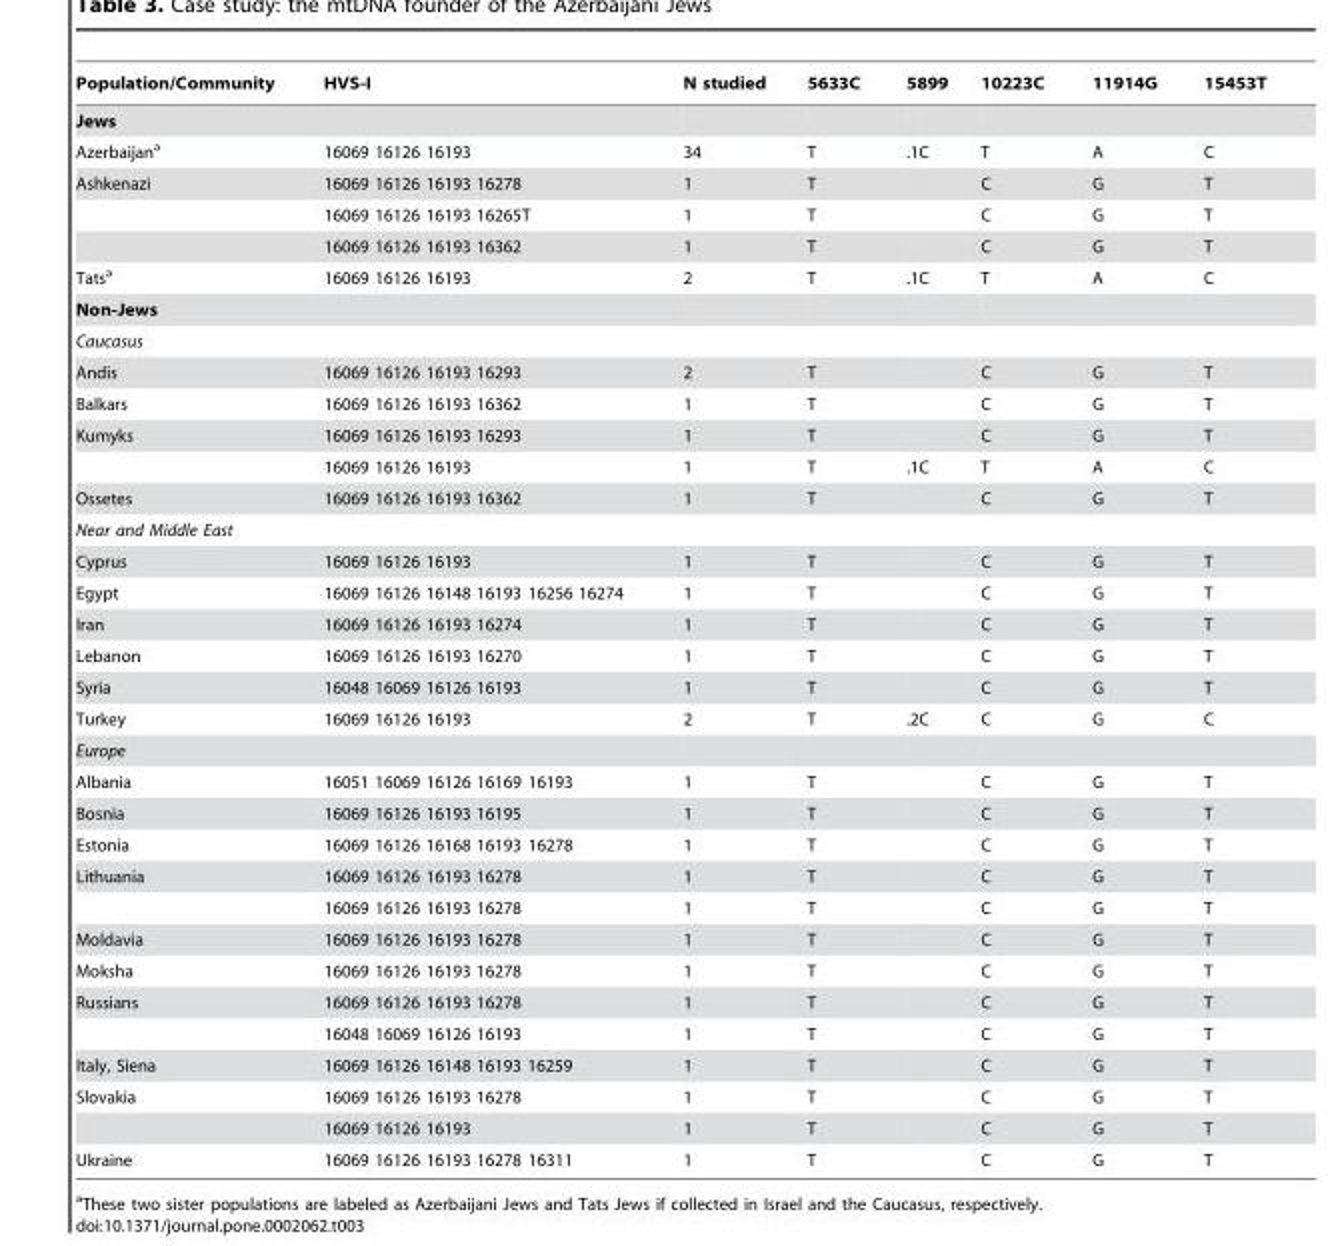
<table><thead><tr><td>Population/Community</td><td>HVS-I</td><td>N studied</td><td>5633C</td><td>5899</td><td>10223C</td><td>11914G</td><td>15453T</td></tr></thead><tbody><tr><td colspan="8">Jews</td></tr><tr><td>Azerbaijan<sup>a</sup></td><td>16069 16126 16193</td><td>34</td><td>T</td><td>.1C</td><td>T</td><td>A</td><td>C</td></tr><tr><td rowspan="3">Ashkenazi</td><td>16069 16126 16193 16278</td><td>1</td><td>T</td><td></td><td>C</td><td>G</td><td>T</td></tr><tr><td>16069 16126 16193 16265T</td><td>1</td><td>T</td><td></td><td>C</td><td>G</td><td>T</td></tr><tr><td>16069 16126 16193 16362</td><td>1</td><td>T</td><td></td><td>C</td><td>G</td><td>T</td></tr><tr><td>Tats<sup>a</sup></td><td>16069 16126 16193</td><td>2</td><td>T</td><td>.1C</td><td>T</td><td>A</td><td>C</td></tr><tr><td colspan="8">Non-Jews</td></tr><tr><td colspan="8">Caucasus</td></tr><tr><td>Andis</td><td>16069 16126 16193 16293</td><td>2</td><td>T</td><td></td><td>C</td><td>G</td><td>T</td></tr><tr><td>Balkars</td><td>16069 16126 16193 16362</td><td>1</td><td>T</td><td></td><td>C</td><td>G</td><td>T</td></tr><tr><td rowspan="2">Kumyks</td><td>16069 16126 16193 16293</td><td>1</td><td>T</td><td></td><td>C</td><td>G</td><td>T</td></tr><tr><td>16069 16126 16193</td><td>1</td><td>T</td><td>.1C</td><td>T</td><td>A</td><td>C</td></tr><tr><td>Ossetes</td><td>16069 16126 16193 16362</td><td>1</td><td>T</td><td></td><td>C</td><td>G</td><td>T</td></tr><tr><td colspan="8">Near and Middle East</td></tr><tr><td>Cyprus</td><td>16069 16126 16193</td><td>1</td><td>T</td><td></td><td>C</td><td>G</td><td>T</td></tr><tr><td>Egypt</td><td>16069 16126 16148 16193 16256 16274</td><td>1</td><td>T</td><td></td><td>C</td><td>G</td><td>T</td></tr><tr><td>Iran</td><td>16069 16126 16193 16274</td><td>1</td><td>T</td><td></td><td>C</td><td>G</td><td>T</td></tr><tr><td>Lebanon</td><td>16069 16126 16193 16270</td><td>1</td><td>T</td><td></td><td>C</td><td>G</td><td>T</td></tr><tr><td>Syria</td><td>16048 16069 16126 16193</td><td>1</td><td>T</td><td></td><td>C</td><td>G</td><td>T</td></tr><tr><td>Turkey</td><td>16069 16126 16193</td><td>2</td><td>T</td><td>.2C</td><td>C</td><td>G</td><td>C</td></tr><tr><td colspan="8">Europe</td></tr><tr><td>Albania</td><td>16051 16069 16126 16169 16193</td><td>1</td><td>T</td><td></td><td>C</td><td>G</td><td>T</td></tr><tr><td>Bosnia</td><td>16069 16126 16193 16195</td><td>1</td><td>T</td><td></td><td>C</td><td>G</td><td>T</td></tr><tr><td>Estonia</td><td>16069 16126 16168 16193 16278</td><td>1</td><td>T</td><td></td><td>C</td><td>G</td><td>T</td></tr><tr><td rowspan="2">Lithuania</td><td>16069 16126 16193 16278</td><td>1</td><td>T</td><td></td><td>C</td><td>G</td><td>T</td></tr><tr><td>16069 16126 16193 16278</td><td>1</td><td>T</td><td></td><td>C</td><td>G</td><td>T</td></tr><tr><td>Moldavia</td><td>16069 16126 16193 16278</td><td>1</td><td>T</td><td></td><td>C</td><td>G</td><td>T</td></tr><tr><td>Moksha</td><td>16069 16126 16193 16278</td><td>1</td><td>T</td><td></td><td>C</td><td>G</td><td>T</td></tr><tr><td rowspan="2">Russians</td><td>16069 16126 16193 16278</td><td>1</td><td>T</td><td></td><td>C</td><td>G</td><td>T</td></tr><tr><td>16048 16069 16126 16193</td><td>1</td><td>T</td><td></td><td>C</td><td>G</td><td>T</td></tr><tr><td>Italy, Siena</td><td>16069 16126 16148 16193 16259</td><td>1</td><td>T</td><td></td><td>C</td><td>G</td><td>T</td></tr><tr><td rowspan="2">Slovakia</td><td>16069 16126 16193 16278</td><td>1</td><td>T</td><td></td><td>C</td><td>G</td><td>T</td></tr><tr><td>16069 16126 16193</td><td>1</td><td>T</td><td></td><td>C</td><td>G</td><td>T</td></tr><tr><td>Ukraine</td><td>16069 16126 16193 16278 16311</td><td>1</td><td>T</td><td></td><td>C</td><td>G</td><td>T</td></tr></tbody></table>